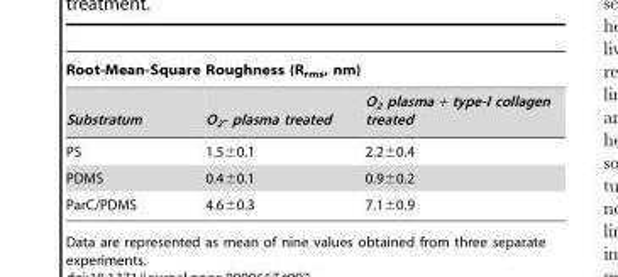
<table><thead><tr><td colspan="3">Root-Mean-Square Roughness (R<sub>rms</sub>, nm)</td></tr><tr><td>Substratum</td><td>O<sub>2</sub>- plasma treated</td><td>O<sub>2</sub> plasma + type-I collagen treated</td></tr></thead><tbody><tr><td>PS</td><td>1.5±0.1</td><td>2.2±0.4</td></tr><tr><td>PDMS</td><td>0.4±0.1</td><td>0.9±0.2</td></tr><tr><td>ParC/PDMS</td><td>4.6±0.3</td><td>7.1±0.9</td></tr></tbody></table>